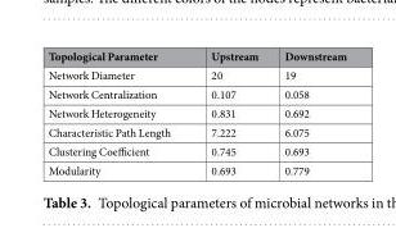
<table><thead><tr><td>Topological Parameter</td><td>Upstream</td><td>Downstream</td></tr></thead><tbody><tr><td>Network Diameter</td><td>20</td><td>19</td></tr><tr><td>Network Centralization</td><td>0.107</td><td>0.058</td></tr><tr><td>Network Heterogeneity</td><td>0.831</td><td>0.692</td></tr><tr><td>Characteristic Path Length</td><td>7.222</td><td>6.075</td></tr><tr><td>Clustering Coefficient</td><td>0.745</td><td>0.693</td></tr><tr><td>Modularity</td><td>0.693</td><td>0.779</td></tr></tbody></table>